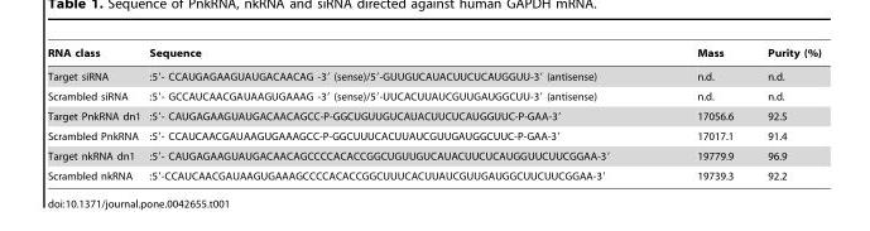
<table><thead><tr><td>RNA class</td><td>Sequence</td><td>Mass</td><td>Purity (%)</td></tr></thead><tbody><tr><td>Target siRNA</td><td>:5′- CCAUGAGAAGUAUGACAACAG -3′ (sense)/5′-GUUGUCAUACUUCUCAUGGUU-3′ (antisense)</td><td>n.d.</td><td>n.d.</td></tr><tr><td>Scrambled siRNA</td><td>:5′- GCCAUCAACGAUAAGUGAAAG -3′ (sense)/5′-UUCACUUAUCGUUGAUGGCUU-3′ (antisense)</td><td>n.d.</td><td>n.d.</td></tr><tr><td>Target PnkRNA dn1</td><td>:5′- CAUGAGAAGUAUGACAACAGCC-P-GGCUGUUGUCAUACUUCUCAUGGUUC-P-GAA-3′</td><td>17056.6</td><td>92.5</td></tr><tr><td>Scrambled PnkRNA</td><td>:5′- CCAUCAACGAUAAGUGAAAGCC-P-GGCUUUCACUUAUCGUUGAUGGCUUC-P-GAA-3′</td><td>17017.1</td><td>91.4</td></tr><tr><td>Target nkRNA dn1</td><td>:5′- CAUGAGAAGUAUGACAACAGCCCCACACCGGCUGUUGUCAUACUUCUCAUGGUUCUUCGGAA-3′</td><td>19779.9</td><td>96.9</td></tr><tr><td>Scrambled nkRNA</td><td>:5′-CCAUCAACGAUAAGUGAAAGCCCCACACCGGCUUUCACUUAUCGUUGAUGGCUUCUUCGGAA-3′</td><td>19739.3</td><td>92.2</td></tr></tbody></table>